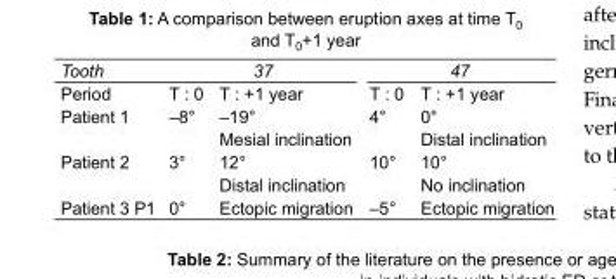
<table><tbody><tr><td>Tooth</td><td></td><td>37</td><td></td><td>47</td></tr><tr><td>Period</td><td>T : 0</td><td>T : +1 year</td><td>T : 0</td><td>T : +1 year</td></tr><tr><td rowspan="2">Patient 1</td><td>–8°</td><td>–19°</td><td>4°</td><td>0°</td></tr><tr><td></td><td>Mesial inclination</td><td></td><td>Distal inclination</td></tr><tr><td rowspan="2">Patient 2</td><td>3°</td><td>12°</td><td>10°</td><td>10°</td></tr><tr><td></td><td>Distal inclination</td><td></td><td>No inclination</td></tr><tr><td>Patient 3 P1</td><td>0°</td><td>Ectopic migration</td><td>–5°</td><td>Ectopic migration</td></tr></tbody></table>